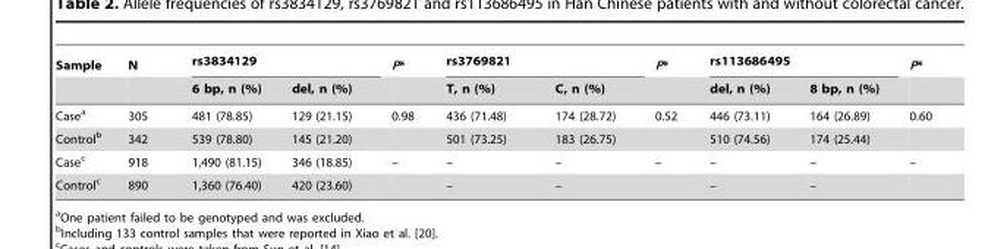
<table><thead><tr><td rowspan="2">Sample</td><td rowspan="2">N</td><td colspan="2">rs3834129</td><td rowspan="2">P*</td><td colspan="2">rs3769821</td><td rowspan="2">P*</td><td colspan="2">rs113686495</td><td rowspan="2">P*</td></tr><tr><td>6 bp, n (%)</td><td>del, n (%)</td><td>T, n (%)</td><td>C, n (%)</td><td>del, n (%)</td><td>8 bp, n (%)</td></tr></thead><tbody><tr><td>Case<sup>a</sup></td><td>305</td><td>481 (78.85)</td><td>129 (21.15)</td><td>0.98</td><td>436 (71.48)</td><td>174 (28.72)</td><td>0.52</td><td>446 (73.11)</td><td>164 (26.89)</td><td>0.60</td></tr><tr><td>Control<sup>b</sup></td><td>342</td><td>539 (78.80)</td><td>145 (21.20)</td><td></td><td>501 (73.25)</td><td>183 (26.75)</td><td></td><td>510 (74.56)</td><td>174 (25.44)</td><td></td></tr><tr><td>Case<sup>c</sup></td><td>918</td><td>1,490 (81.15)</td><td>346 (18.85)</td><td>–</td><td>–</td><td>–</td><td>–</td><td>–</td><td>–</td><td>–</td></tr><tr><td>Control<sup>c</sup></td><td>890</td><td>1,360 (76.40)</td><td>420 (23.60)</td><td></td><td>–</td><td>–</td><td></td><td>–</td><td>–</td><td></td></tr></tbody></table>